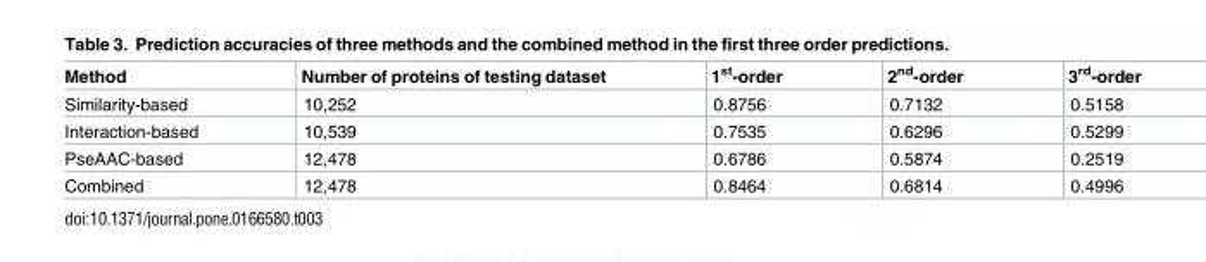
<table><thead><tr><td>Method</td><td>Number of proteins of testing dataset</td><td>1<sup>st</sup>-order</td><td>2<sup>nd</sup>-order</td><td>3<sup>rd</sup>-order</td></tr></thead><tbody><tr><td>Similarity-based</td><td>10,252</td><td>0.8756</td><td>0.7132</td><td>0.5158</td></tr><tr><td>Interaction-based</td><td>10,539</td><td>0.7535</td><td>0.6296</td><td>0.5299</td></tr><tr><td>PseAAC-based</td><td>12,478</td><td>0.6786</td><td>0.5874</td><td>0.2519</td></tr><tr><td>Combined</td><td>12,478</td><td>0.8464</td><td>0.6814</td><td>0.4996</td></tr></tbody></table>